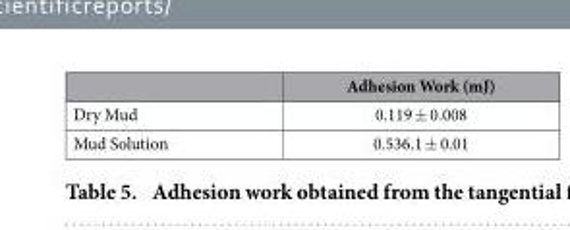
<table><thead><tr><td></td><td>Adhesion Work (mJ)</td></tr></thead><tbody><tr><td>Dry Mud</td><td>0.119 ± 0.008</td></tr><tr><td>Mud Solution</td><td>0.536.1 ± 0.01</td></tr></tbody></table>